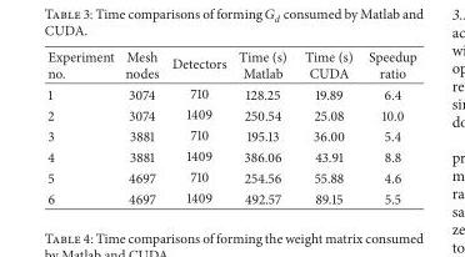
<table><thead><tr><td>Experiment no.</td><td>Mesh nodes</td><td>Detectors</td><td>Time (s) Matlab</td><td>Time (s) CUDA</td><td>Speedup ratio</td></tr></thead><tbody><tr><td>1</td><td>3074</td><td>710</td><td>128.25</td><td>19.89</td><td>6.4</td></tr><tr><td>2</td><td>3074</td><td>1409</td><td>250.54</td><td>25.08</td><td>10.0</td></tr><tr><td>3</td><td>3881</td><td>710</td><td>195.13</td><td>36.00</td><td>5.4</td></tr><tr><td>4</td><td>3881</td><td>1409</td><td>386.06</td><td>43.91</td><td>8.8</td></tr><tr><td>5</td><td>4697</td><td>710</td><td>254.56</td><td>55.88</td><td>4.6</td></tr><tr><td>6</td><td>4697</td><td>1409</td><td>492.57</td><td>89.15</td><td>5.5</td></tr></tbody></table>